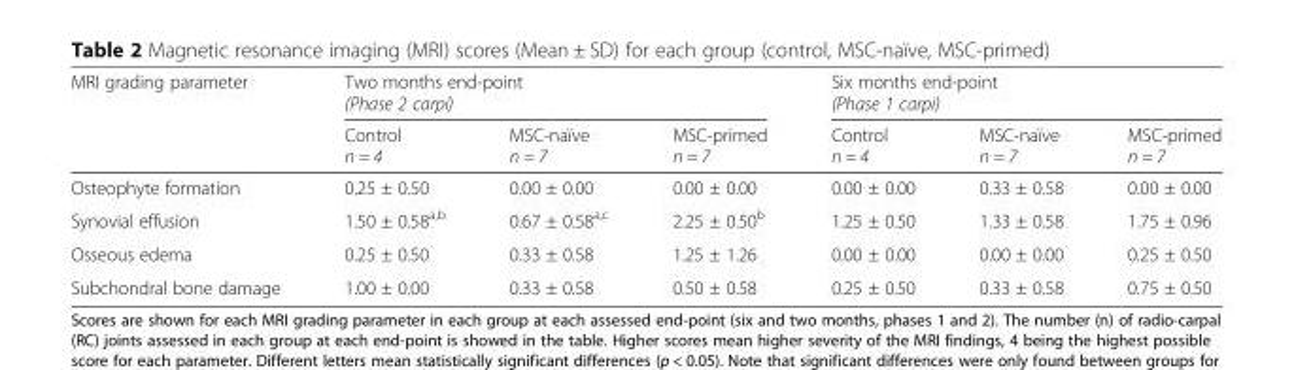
<table><thead><tr><td rowspan="2">MRI grading parameter</td><td colspan="3">Two months end-point (Phase 2 carpi)</td><td colspan="3">Six months end-point (Phase 1 carpi)</td></tr><tr><td>Control n = 4</td><td>MSC-naïve n = 7</td><td>MSC-primed n = 7</td><td>Control n = 4</td><td>MSC-naïve n = 7</td><td>MSC-primed n = 7</td></tr></thead><tbody><tr><td>Osteophyte formation</td><td>0.25 ± 0.50</td><td>0.00 ± 0.00</td><td>0.00 ± 0.00</td><td>0.00 ± 0.00</td><td>0.33 ± 0.58</td><td>0.00 ± 0.00</td></tr><tr><td>Synovial effusion</td><td>1.50 ± 0.58<sup>a,b</sup></td><td>0.67 ± 0.58<sup>a,c</sup></td><td>2.25 ± 0.50<sup>b</sup></td><td>1.25 ± 0.50</td><td>1.33 ± 0.58</td><td>1.75 ± 0.96</td></tr><tr><td>Osseous edema</td><td>0.25 ± 0.50</td><td>0.33 ± 0.58</td><td>1.25 ± 1.26</td><td>0.00 ± 0.00</td><td>0.00 ± 0.00</td><td>0.25 ± 0.50</td></tr><tr><td>Subchondral bone damage</td><td>1.00 ± 0.00</td><td>0.33 ± 0.58</td><td>0.50 ± 0.58</td><td>0.25 ± 0.50</td><td>0.33 ± 0.58</td><td>0.75 ± 0.50</td></tr></tbody></table>